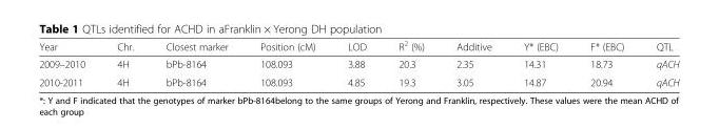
<table><thead><tr><td>Year</td><td>Chr.</td><td>Closest marker</td><td>Position (cM)</td><td>LOD</td><td>R<sup>2</sup> (%)</td><td>Additive</td><td>Y* (EBC)</td><td>F* (EBC)</td><td>QTL</td></tr></thead><tbody><tr><td>2009–2010</td><td>4H</td><td>bPb-8164</td><td>108.093</td><td>3.88</td><td>20.3</td><td>2.35</td><td>14.31</td><td>18.73</td><td>qACH</td></tr><tr><td>2010-2011</td><td>4H</td><td>bPb-8164</td><td>108.093</td><td>4.85</td><td>19.3</td><td>3.05</td><td>14.87</td><td>20.94</td><td>qACH</td></tr></tbody></table>